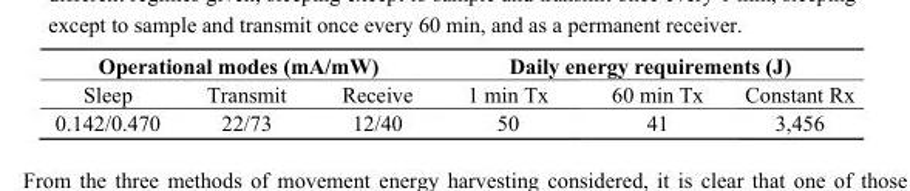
<table><thead><tr><td colspan="3">Operational modes (mA/mW)</td><td colspan="3">Daily energy requirements (J)</td></tr><tr><td>Sleep</td><td>Transmit</td><td>Receive</td><td>1 min Tx</td><td>60 min Tx</td><td>Constant Rx</td></tr></thead><tbody><tr><td>0.142/0.470</td><td>22/73</td><td>12/40</td><td>50</td><td>41</td><td>3,456</td></tr></tbody></table>